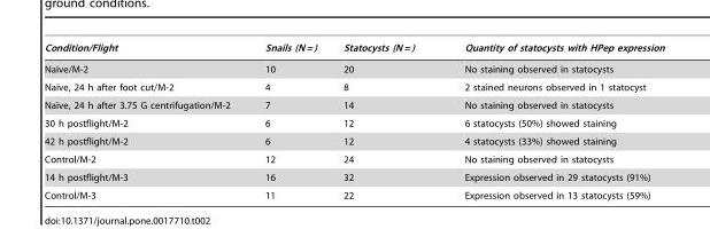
<table><thead><tr><td>Condition/Flight</td><td>Snails (N = )</td><td>Statocysts (N = )</td><td>Quantity of statocysts with HPep expression</td></tr></thead><tbody><tr><td>Naı¨ve/M-2</td><td>10</td><td>20</td><td>No staining observed in statocysts</td></tr><tr><td>Naı¨ve, 24 h after foot cut/M-2</td><td>4</td><td>8</td><td>2 stained neurons observed in 1 statocyst</td></tr><tr><td>Naı¨ve, 24 h after 3.75 G centrifugation/M-2</td><td>7</td><td>14</td><td>No staining observed in statocysts</td></tr><tr><td>30 h postflight/M-2</td><td>6</td><td>12</td><td>6 statocysts (50%) showed staining</td></tr><tr><td>42 h postflight/M-2</td><td>6</td><td>12</td><td>4 statocysts (33%) showed staining</td></tr><tr><td>Control/M-2</td><td>12</td><td>24</td><td>No staining observed in statocysts</td></tr><tr><td>14 h postflight/M-3</td><td>16</td><td>32</td><td>Expression observed in 29 statocysts (91%)</td></tr><tr><td>Control/M-3</td><td>11</td><td>22</td><td>Expression observed in 13 statocysts (59%)</td></tr></tbody></table>